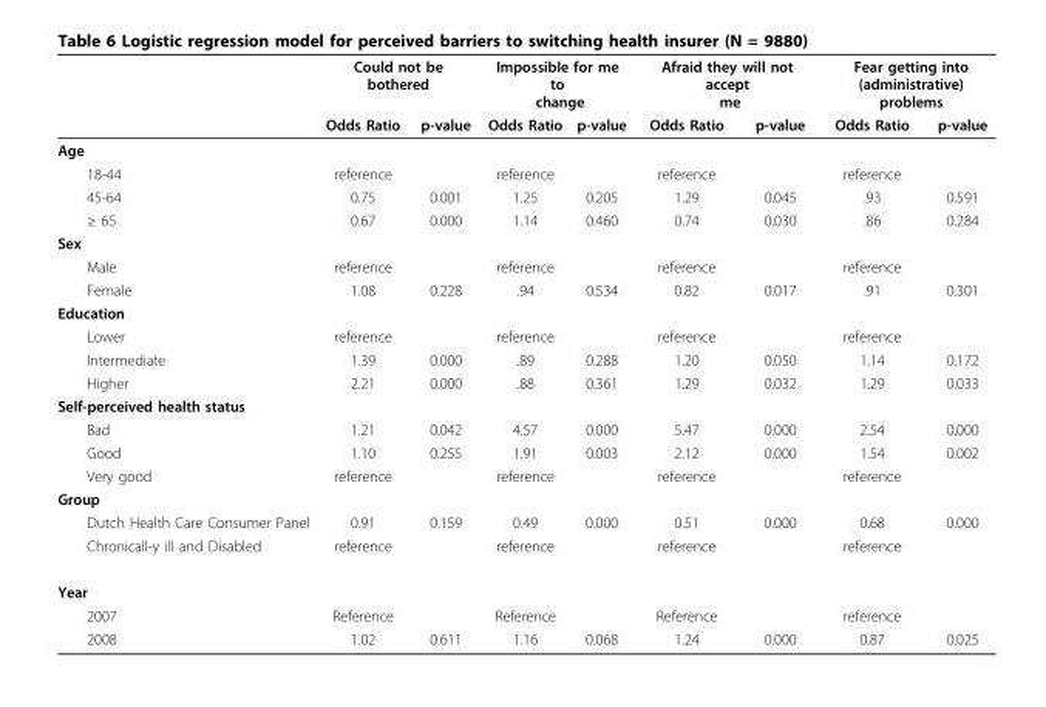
<table><thead><tr><td rowspan="2"></td><td colspan="2">Could not be bothered</td><td colspan="2">Impossible for me to change</td><td colspan="2">Afraid they will not accept me</td><td colspan="2">Fear getting into (administrative) problems</td></tr><tr><td>Odds Ratio</td><td>p-value</td><td>Odds Ratio</td><td>p-value</td><td>Odds Ratio</td><td>p-value</td><td>Odds Ratio</td><td>p-value</td></tr></thead><tbody><tr><td colspan="9">Age</td></tr><tr><td>18-44</td><td>reference</td><td></td><td>reference</td><td></td><td>reference</td><td></td><td>reference</td><td></td></tr><tr><td>45-64</td><td>0.75</td><td>0.001</td><td>1.25</td><td>0.205</td><td>1.29</td><td>0.045</td><td>.93</td><td>0.591</td></tr><tr><td>≥ 65</td><td>0.67</td><td>0.000</td><td>1.14</td><td>0.460</td><td>0.74</td><td>0.030</td><td>.86</td><td>0.284</td></tr><tr><td colspan="9">Sex</td></tr><tr><td>Male</td><td>reference</td><td></td><td>reference</td><td></td><td>reference</td><td></td><td>reference</td><td></td></tr><tr><td>Female</td><td>1.08</td><td>0.228</td><td>.94</td><td>0.534</td><td>0.82</td><td>0.017</td><td>.91</td><td>0.301</td></tr><tr><td colspan="9">Education</td></tr><tr><td>Lower</td><td>reference</td><td></td><td>reference</td><td></td><td>reference</td><td></td><td>reference</td><td></td></tr><tr><td>Intermediate</td><td>1.39</td><td>0.000</td><td>.89</td><td>0.288</td><td>1.20</td><td>0.050</td><td>1.14</td><td>0.172</td></tr><tr><td>Higher</td><td>2.21</td><td>0.000</td><td>.88</td><td>0.361</td><td>1.29</td><td>0.032</td><td>1.29</td><td>0.033</td></tr><tr><td colspan="9">Self-perceived health status</td></tr><tr><td>Bad</td><td>1.21</td><td>0.042</td><td>4.57</td><td>0.000</td><td>5.47</td><td>0.000</td><td>2.54</td><td>0.000</td></tr><tr><td>Good</td><td>1.10</td><td>0.255</td><td>1.91</td><td>0.003</td><td>2.12</td><td>0.000</td><td>1.54</td><td>0.002</td></tr><tr><td>Very good</td><td>reference</td><td></td><td>reference</td><td></td><td>reference</td><td></td><td>reference</td><td></td></tr><tr><td colspan="9">Group</td></tr><tr><td>Dutch Health Care Consumer Panel</td><td>0.91</td><td>0.159</td><td>0.49</td><td>0.000</td><td>0.51</td><td>0.000</td><td>0.68</td><td>0.000</td></tr><tr><td>Chronicall-y ill and Disabled</td><td>reference</td><td></td><td>reference</td><td></td><td>reference</td><td></td><td>reference</td><td></td></tr><tr><td colspan="9">Year</td></tr><tr><td>2007</td><td>Reference</td><td></td><td>Reference</td><td></td><td>Reference</td><td></td><td>reference</td><td></td></tr><tr><td>2008</td><td>1.02</td><td>0.611</td><td>1.16</td><td>0.068</td><td>1.24</td><td>0.000</td><td>0.87</td><td>0.025</td></tr></tbody></table>